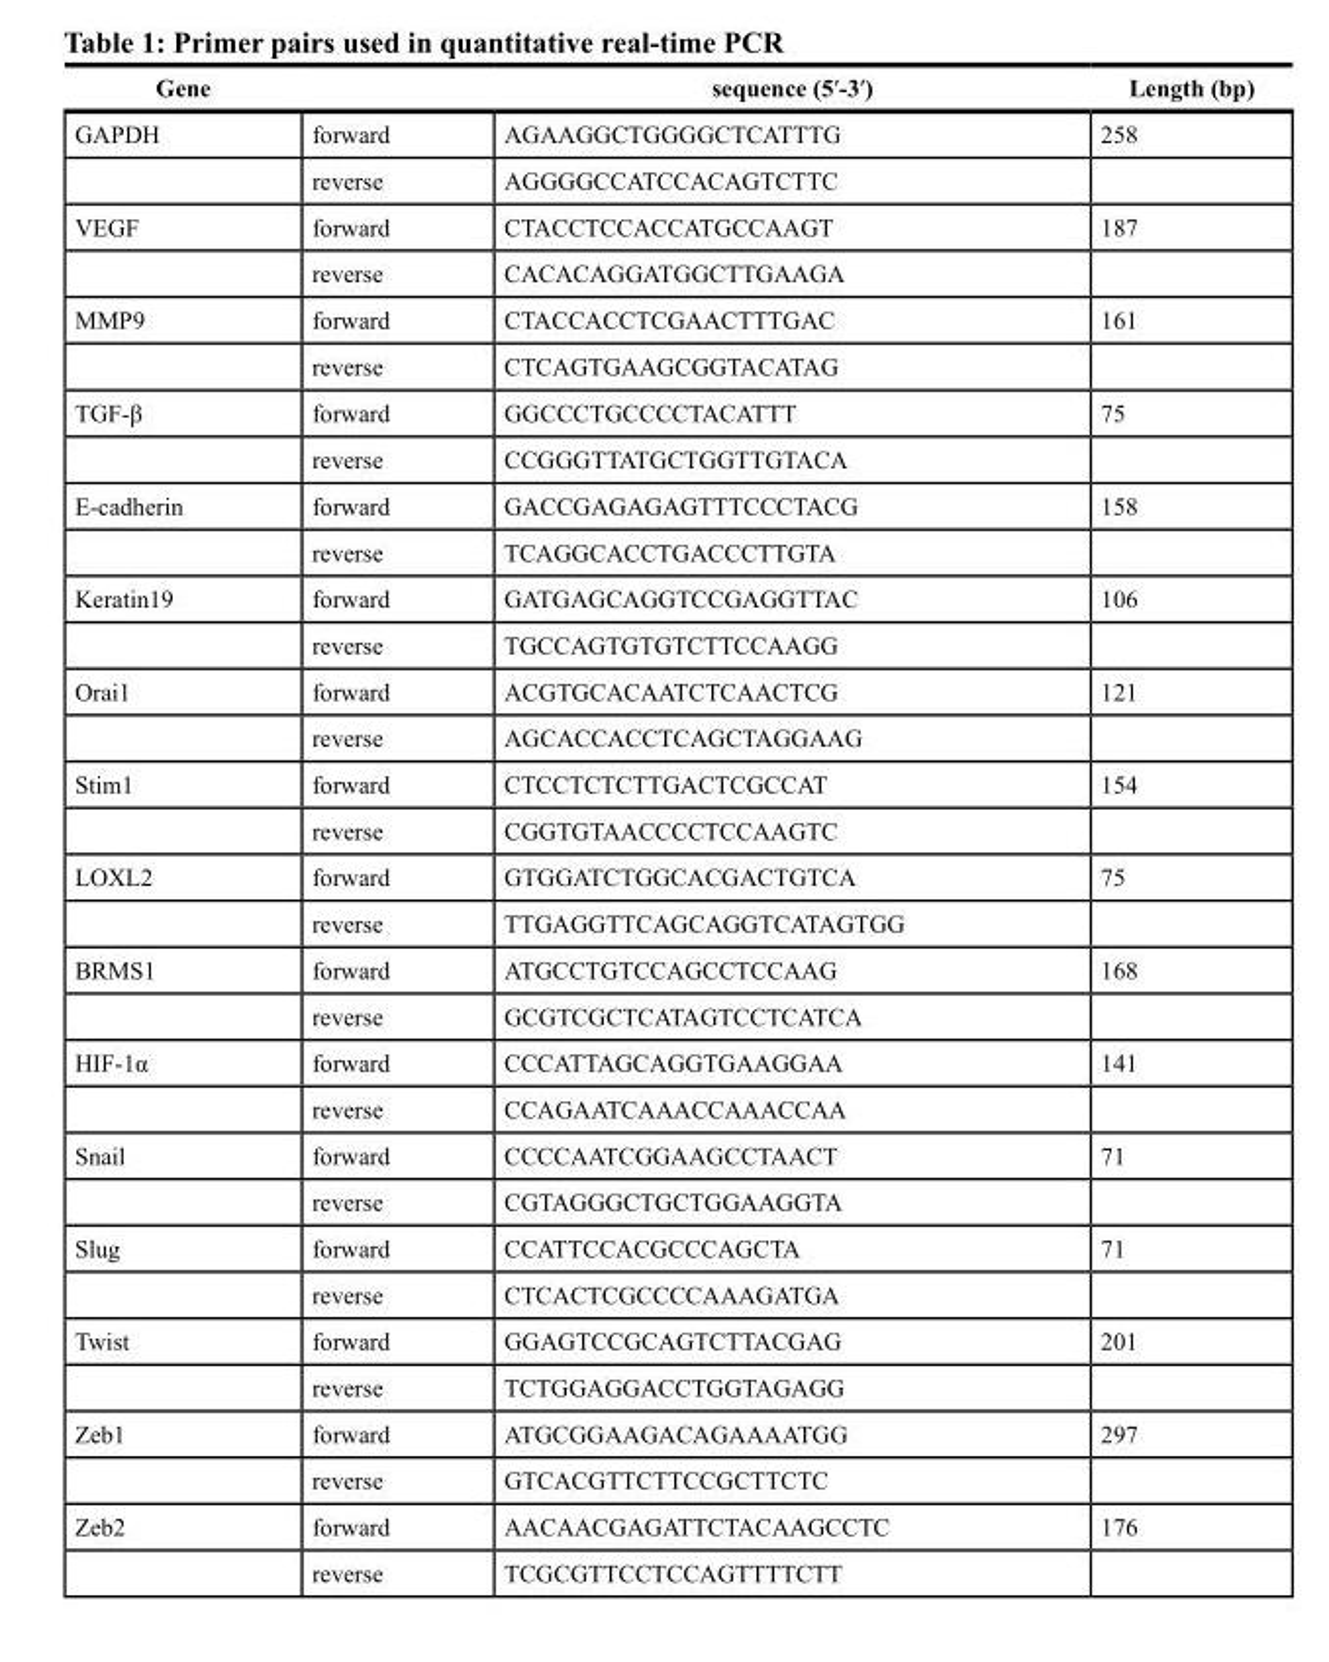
<table><thead><tr><td>Gene</td><td></td><td>sequence (5′-3′)</td><td>Length (bp)</td></tr></thead><tbody><tr><td rowspan="2">GAPDH</td><td>forward</td><td>AGAAGGCTGGGGCTCATTTG</td><td>258</td></tr><tr><td>reverse</td><td>AGGGGCCATCCACAGTCTTC</td><td></td></tr><tr><td rowspan="2">VEGF</td><td>forward</td><td>CTACCTCCACCATGCCAAGT</td><td>187</td></tr><tr><td>reverse</td><td>CACACAGGATGGCTTGAAGA</td><td></td></tr><tr><td rowspan="2">MMP9</td><td>forward</td><td>CTACCACCTCGAACTTTGAC</td><td>161</td></tr><tr><td>reverse</td><td>CTCAGTGAAGCGGTACATAG</td><td></td></tr><tr><td rowspan="2">TGF-β</td><td>forward</td><td>GGCCCTGCCCCTACATTT</td><td>75</td></tr><tr><td>reverse</td><td>CCGGGTTATGCTGGTTGTACA</td><td></td></tr><tr><td rowspan="2">E-cadherin</td><td>forward</td><td>GACCGAGAGAGTTTCCCTACG</td><td>158</td></tr><tr><td>reverse</td><td>TCAGGCACCTGACCCTTGTA</td><td></td></tr><tr><td rowspan="2">Keratin19</td><td>forward</td><td>GATGAGCAGGTCCGAGGTTAC</td><td>106</td></tr><tr><td>reverse</td><td>TGCCAGTGTGTCTTCCAAGG</td><td></td></tr><tr><td rowspan="2">Orai1</td><td>forward</td><td>ACGTGCACAATCTCAACTCG</td><td>121</td></tr><tr><td>reverse</td><td>AGCACCACCTCAGCTAGGAAG</td><td></td></tr><tr><td rowspan="2">Stim1</td><td>forward</td><td>CTCCTCTCTTGACTCGCCAT</td><td>154</td></tr><tr><td>reverse</td><td>CGGTGTAACCCCTCCAAGTC</td><td></td></tr><tr><td rowspan="2">LOXL2</td><td>forward</td><td>GTGGATCTGGCACGACTGTCA</td><td>75</td></tr><tr><td>reverse</td><td>TTGAGGTTCAGCAGGTCATAGTGG</td><td></td></tr><tr><td rowspan="2">BRMS1</td><td>forward</td><td>ATGCCTGTCCAGCCTCCAAG</td><td>168</td></tr><tr><td>reverse</td><td>GCGTCGCTCATAGTCCTCATCA</td><td></td></tr><tr><td rowspan="2">HIF-1α</td><td>forward</td><td>CCCATTAGCAGGTGAAGGAA</td><td>141</td></tr><tr><td>reverse</td><td>CCAGAATCAAACCAAACCAA</td><td></td></tr><tr><td rowspan="2">Snail</td><td>forward</td><td>CCCCAATCGGAAGCCTAACT</td><td>71</td></tr><tr><td>reverse</td><td>CGTAGGGCTGCTGGAAGGTA</td><td></td></tr><tr><td rowspan="2">Slug</td><td>forward</td><td>CCATTCCACGCCCAGCTA</td><td>71</td></tr><tr><td>reverse</td><td>CTCACTCGCCCCAAAGATGA</td><td></td></tr><tr><td rowspan="2">Twist</td><td>forward</td><td>GGAGTCCGCAGTCTTACGAG</td><td>201</td></tr><tr><td>reverse</td><td>TCTGGAGGACCTGGTAGAGG</td><td></td></tr><tr><td rowspan="2">Zeb1</td><td>forward</td><td>ATGCGGAAGACAGAAAATGG</td><td>297</td></tr><tr><td>reverse</td><td>GTCACGTTCTTCCGCTTCTC</td><td></td></tr><tr><td rowspan="2">Zeb2</td><td>forward</td><td>AACAACGAGATTCTACAAGCCTC</td><td>176</td></tr><tr><td>reverse</td><td>TCGCGTTCCTCCAGTTTTCTT</td><td></td></tr></tbody></table>